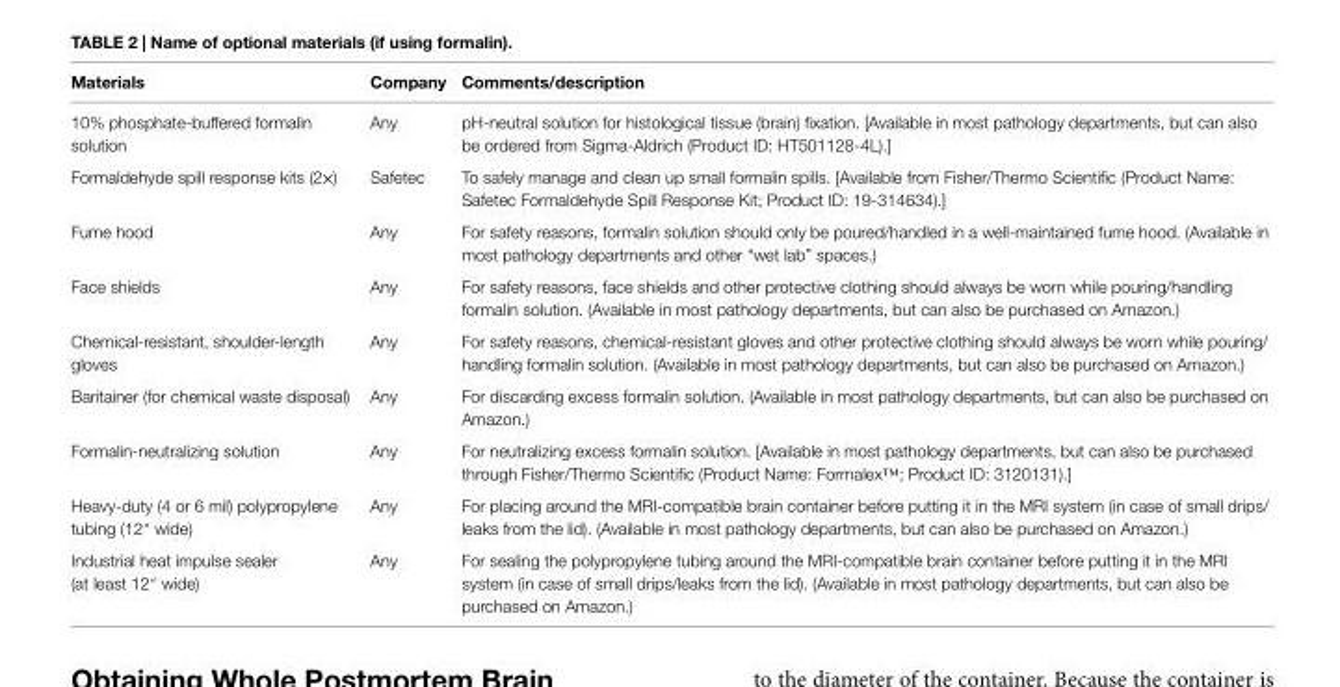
<table><thead><tr><td>Materials</td><td>company</td><td>comments/description</td></tr></thead><tbody><tr><td>10% phosphate-buffered formalin solution</td><td>Any</td><td>pH-neutral solution for histological tissue (brain) fixation. [Available in most pathology departments, but can also be ordered from Sigma-Aldrich (Product ID: HT501128-4L).]</td></tr><tr><td>Formaldehyde spill response kits (2×)</td><td>Safetec</td><td>To safely manage and clean up small formalin spills. [Available from Fisher/Thermo Scientific (Product Name: Safetec Formaldehyde Spill Response Kit; Product ID: 19-314634).]</td></tr><tr><td>Fume hood</td><td>Any</td><td>For safety reasons, formalin solution should only be poured/handled in a well-maintained fume hood. (Available in most pathology departments and other “wet lab” spaces.)</td></tr><tr><td>Face shields</td><td>Any</td><td>For safety reasons, face shields and other protective clothing should always be worn while pouring/handling formalin solution. (Available in most pathology departments, but can also be purchased on Amazon.)</td></tr><tr><td>Chemical-resistant, shoulder-length gloves</td><td>Any</td><td>For safety reasons, chemical-resistant gloves and other protective clothing should always be worn while pouring/ handling formalin solution. (Available in most pathology departments, but can also be purchased on Amazon.)</td></tr><tr><td>Baritainer (for chemical waste disposal)</td><td>Any</td><td>For discarding excess formalin solution. (Available in most pathology departments, but can also be purchased on Amazon.)</td></tr><tr><td>Formalin-neutralizing solution</td><td>Any</td><td>For neutralizing excess formalin solution. [Available in most pathology departments, but can also be purchased through Fisher/Thermo Scientific (Product Name: Formalex™; Product ID: 3120131).]</td></tr><tr><td>Heavy-duty (4 or 6 mil) polypropylene tubing (12″ wide)</td><td>Any</td><td>For placing around the MRI-compatible brain container before putting it in the MRI system (in case of small drips/ leaks from the lid). (Available in most pathology departments, but can also be purchased on Amazon.)</td></tr><tr><td>Industrial heat impulse sealer (at least 12″ wide)</td><td>Any</td><td>For sealing the polypropylene tubing around the MRI-compatible brain container before putting it in the MRI system (in case of small drips/leaks from the lid). (Available in most pathology departments, but can also be purchased on Amazon.)</td></tr></tbody></table>